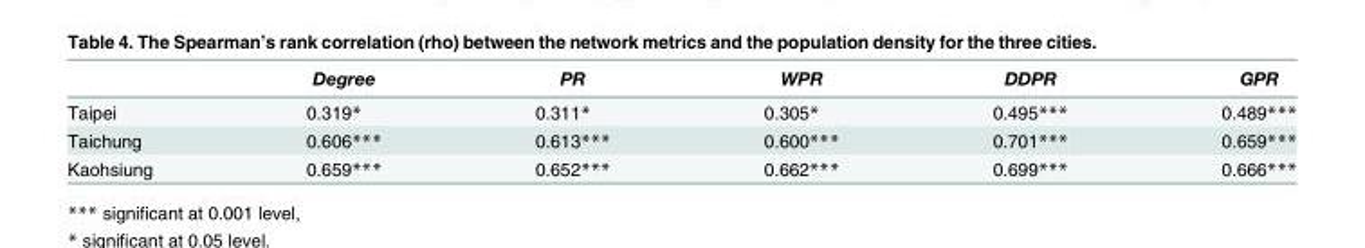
<table><thead><tr><td></td><td>Degree</td><td>PR</td><td>WPR</td><td>DDPR</td><td>GPR</td></tr></thead><tbody><tr><td>Taipei</td><td>0.319*</td><td>0.311*</td><td>0.305*</td><td>0.495***</td><td>0.489***</td></tr><tr><td>Taichung</td><td>0.606***</td><td>0.613***</td><td>0.600***</td><td>0.701***</td><td>0.659***</td></tr><tr><td>Kaohsiung</td><td>0.659***</td><td>0.652***</td><td>0.662***</td><td>0.699***</td><td>0.666***</td></tr></tbody></table>